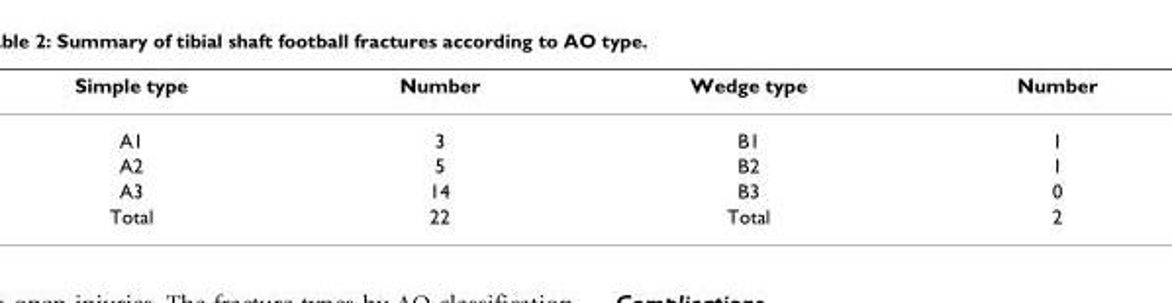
<table><thead><tr><td>Simple type</td><td>Number</td><td>Wedge type</td><td>Number</td></tr></thead><tbody><tr><td>A1</td><td>3</td><td>B1</td><td>1</td></tr><tr><td>A2</td><td>5</td><td>B2</td><td>1</td></tr><tr><td>A3</td><td>14</td><td>B3</td><td>0</td></tr><tr><td>Total</td><td>22</td><td>Total</td><td>2</td></tr></tbody></table>